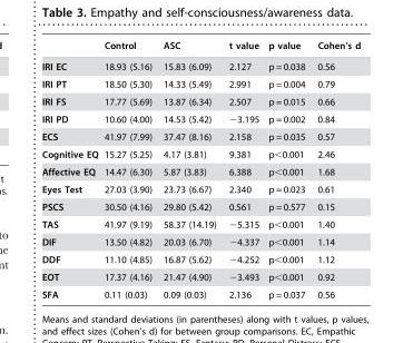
<table><thead><tr><td></td><td>Control</td><td>ASC</td><td>t value</td><td>p value</td><td>Cohen’s d</td></tr></thead><tbody><tr><td>IRI EC</td><td>18.93 (5.16)</td><td>15.83 (6.09)</td><td>2.127</td><td>p = 0.038</td><td>0.56</td></tr><tr><td>IRI PT</td><td>18.50 (5.30)</td><td>14.33 (5.49)</td><td>2.991</td><td>p = 0.004</td><td>0.79</td></tr><tr><td>IRI FS</td><td>17.77 (5.69)</td><td>13.87 (6.34)</td><td>2.507</td><td>p = 0.015</td><td>0.66</td></tr><tr><td>IRI PD</td><td>10.60 (4.00)</td><td>14.53 (5.42)</td><td>−3.195</td><td>p = 0.002</td><td>0.84</td></tr><tr><td>ECS</td><td>41.97 (7.99)</td><td>37.47 (8.16)</td><td>2.158</td><td>p = 0.035</td><td>0.57</td></tr><tr><td>Cognitive EQ</td><td>15.27 (5.25)</td><td>4.17 (3.81)</td><td>9.381</td><td>p&lt;0.001</td><td>2.46</td></tr><tr><td>Affective EQ</td><td>14.47 (6.30)</td><td>5.87 (3.83)</td><td>6.388</td><td>p&lt;0.001</td><td>1.68</td></tr><tr><td>Eyes Test</td><td>27.03 (3.90)</td><td>23.73 (6.67)</td><td>2.340</td><td>p = 0.023</td><td>0.61</td></tr><tr><td>PSCS</td><td>30.50 (4.16)</td><td>29.80 (5.42)</td><td>0.561</td><td>p = 0.577</td><td>0.15</td></tr><tr><td>TAS</td><td>41.97 (9.19)</td><td>58.37 (14.19)</td><td>−5.315</td><td>p&lt;0.001</td><td>1.40</td></tr><tr><td>DIF</td><td>13.50 (4.82)</td><td>20.03 (6.70)</td><td>−4.337</td><td>p&lt;0.001</td><td>1.14</td></tr><tr><td>DDF</td><td>11.10 (4.85)</td><td>16.87 (5.62)</td><td>−4.252</td><td>p&lt;0.001</td><td>1.12</td></tr><tr><td>EOT</td><td>17.37 (4.16)</td><td>21.47 (4.90)</td><td>−3.493</td><td>p&lt;0.001</td><td>0.92</td></tr><tr><td>SFA</td><td>0.11 (0.03)</td><td>0.09 (0.03)</td><td>2.136</td><td>p = 0.037</td><td>0.56</td></tr></tbody></table>